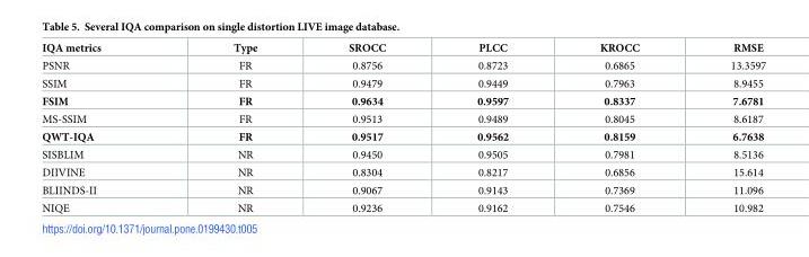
<table><thead><tr><td>IQA metrics</td><td>Type</td><td>SROCC</td><td>PLCC</td><td>KROCC</td><td>RMSE</td></tr></thead><tbody><tr><td>PSNR</td><td>FR</td><td>0.8756</td><td>0.8723</td><td>0.6865</td><td>13.3597</td></tr><tr><td>SSIM</td><td>FR</td><td>0.9479</td><td>0.9449</td><td>0.7963</td><td>8.9455</td></tr><tr><td>FSIM</td><td>FR</td><td>0.9634</td><td>0.9597</td><td>0.8337</td><td>7.6781</td></tr><tr><td>MS-SSIM</td><td>FR</td><td>0.9513</td><td>0.9489</td><td>0.8045</td><td>8.6187</td></tr><tr><td>QWT-IQA</td><td>FR</td><td>0.9517</td><td>0.9562</td><td>0.8159</td><td>6.7638</td></tr><tr><td>SISBLIM</td><td>NR</td><td>0.9450</td><td>0.9505</td><td>0.7981</td><td>8.5136</td></tr><tr><td>DIIVINE</td><td>NR</td><td>0.8304</td><td>0.8217</td><td>0.6856</td><td>15.614</td></tr><tr><td>BLIINDS-II</td><td>NR</td><td>0.9067</td><td>0.9143</td><td>0.7369</td><td>11.096</td></tr><tr><td>NIQE</td><td>NR</td><td>0.9236</td><td>0.9162</td><td>0.7546</td><td>10.982</td></tr></tbody></table>